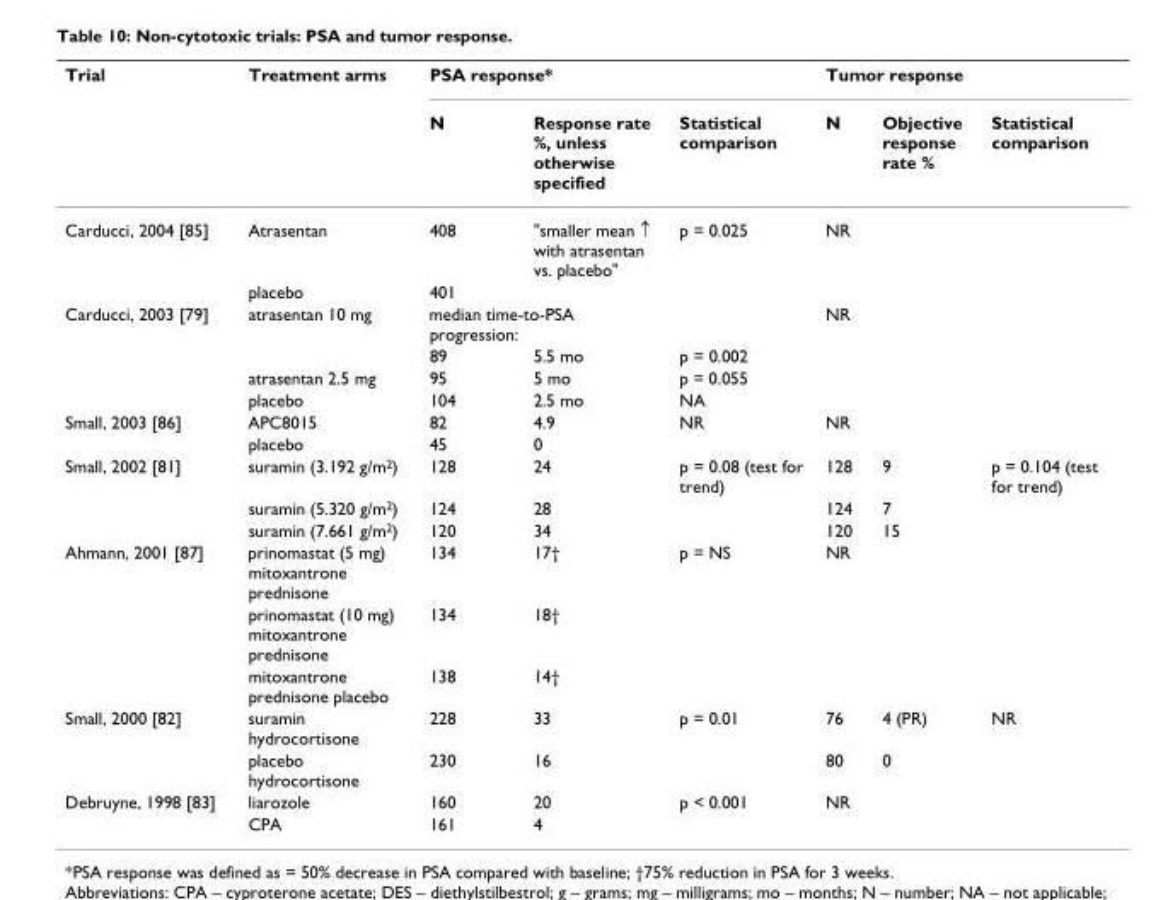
<table><thead><tr><td rowspan="2">Trial</td><td rowspan="2">Treatment arms</td><td colspan="3">PSA response*</td><td colspan="3">Tumor response</td></tr><tr><td>N</td><td>Response rate %, unless otherwise specified</td><td>Statistical comparison</td><td>N</td><td>Objective response rate %</td><td>Statistical comparison</td></tr></thead><tbody><tr><td rowspan="2">Carducci, 2004 [85]</td><td>Atrasentan</td><td>408</td><td>&quot;smaller mean ↑ with atrasentan vs. placebo&quot;</td><td>p = 0.025</td><td colspan="3">NR</td></tr><tr><td>placebo</td><td>401</td><td></td><td></td><td></td><td></td><td></td></tr><tr><td rowspan="4">Carducci, 2003 [79]</td><td>atrasentan 10 mg</td><td colspan="2">median time-to-PSA progression:</td><td></td><td colspan="3">NR</td></tr><tr><td></td><td>89</td><td>5.5 mo</td><td>p = 0.002</td><td></td><td></td><td></td></tr><tr><td>atrasentan 2.5 mg</td><td>95</td><td>5 mo</td><td>p = 0.055</td><td></td><td></td><td></td></tr><tr><td>placebo</td><td>104</td><td>2.5 mo</td><td>NA</td><td></td><td></td><td></td></tr><tr><td rowspan="2">Small, 2003 [86]</td><td>APC8015</td><td>82</td><td>4.9</td><td>NR</td><td colspan="3">NR</td></tr><tr><td>placebo</td><td>45</td><td>0</td><td></td><td></td><td></td><td></td></tr><tr><td rowspan="3">Small, 2002 [81]</td><td>suramin (3.192 g/m2)</td><td>128</td><td>24</td><td>p = 0.08 (test for trend)</td><td>128</td><td>9</td><td>p = 0.104 (test for trend)</td></tr><tr><td>suramin (5.320 g/m2)</td><td>124</td><td>28</td><td></td><td>124</td><td>7</td><td></td></tr><tr><td>suramin (7.661 g/m2)</td><td>120</td><td>34</td><td></td><td>120</td><td>15</td><td></td></tr><tr><td rowspan="3">Ahmann, 2001 [87]</td><td>prinomastat (5 mg) mitoxantrone prednisone</td><td>134</td><td>17†</td><td>p = NS</td><td colspan="3">NR</td></tr><tr><td>prinomastat (10 mg) mitoxantrone prednisone</td><td>134</td><td>18†</td><td></td><td></td><td></td><td></td></tr><tr><td>mitoxantrone prednisone placebo</td><td>138</td><td>14†</td><td></td><td></td><td></td><td></td></tr><tr><td rowspan="2">Small, 2000 [82]</td><td>suramin hydrocortisone</td><td>228</td><td>33</td><td>p = 0.01</td><td>76</td><td>4 (PR)</td><td>NR</td></tr><tr><td>placebo hydrocortisone</td><td>230</td><td>16</td><td></td><td>80</td><td>0</td><td></td></tr><tr><td rowspan="2">Debruyne, 1998 [83]</td><td>liarozole</td><td>160</td><td>20</td><td>p &lt; 0.001</td><td colspan="3">NR</td></tr><tr><td>CPA</td><td>161</td><td>4</td><td></td><td></td><td></td><td></td></tr></tbody></table>